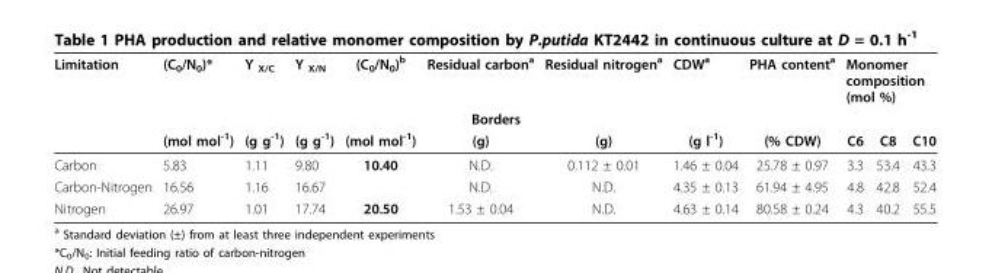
<table><thead><tr><td>Limitation</td><td>(C<sub>0</sub>/N<sub>0</sub>)*</td><td>Y <sub>X/C</sub></td><td>Y <sub>X/N</sub></td><td>(C<sub>0</sub>/N<sub>0</sub>)<sup>b</sup></td><td>Residual carbon<sup>a</sup></td><td>Residual nitrogen<sup>a</sup></td><td>CDW<sup>a</sup></td><td>PHA content<sup>a</sup></td><td colspan="3">Monomer composition (mol %)</td></tr><tr><td colspan="12">Borders</td></tr><tr><td></td><td>(mol mol<sup>-1</sup>)</td><td>(g g<sup>-1</sup>)</td><td>(g g<sup>-1</sup>)</td><td>(mol mol<sup>-1</sup>)</td><td>(g)</td><td>(g)</td><td>(g l<sup>-1</sup>)</td><td>(% CDW)</td><td>C6</td><td>C8</td><td>C10</td></tr></thead><tbody><tr><td>Carbon</td><td>5.83</td><td>1.11</td><td>9.80</td><td>10.40</td><td>N.D.</td><td>0.112 ± 0.01</td><td>1.46 ± 0.04</td><td>25.78 ± 0.97</td><td>3.3</td><td>53.4</td><td>43.3</td></tr><tr><td>Carbon-Nitrogen</td><td>16.56</td><td>1.16</td><td>16.67</td><td></td><td>N.D.</td><td>N.D.</td><td>4.35 ± 0.13</td><td>61.94 ± 4.95</td><td>4.8</td><td>42.8</td><td>52.4</td></tr><tr><td>Nitrogen</td><td>26.97</td><td>1.01</td><td>17.74</td><td>20.50</td><td>1.53 ± 0.04</td><td>N.D.</td><td>4.63 ± 0.14</td><td>80.58 ± 0.24</td><td>4.3</td><td>40.2</td><td>55.5</td></tr></tbody></table>